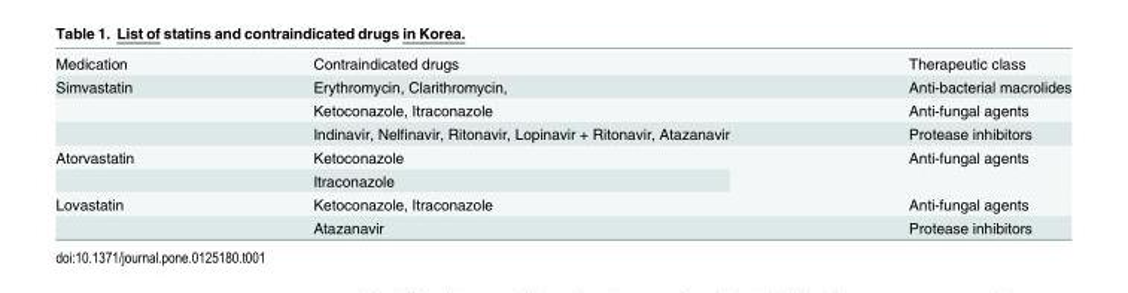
<table><tbody><tr><td>Medication</td><td>Contraindicated drugs</td><td>Therapeutic class</td></tr><tr><td rowspan="3">Simvastatin</td><td>Erythromycin, Clarithromycin,</td><td>Anti-bacterial macrolides</td></tr><tr><td>Ketoconazole, Itraconazole</td><td>Anti-fungal agents</td></tr><tr><td>Indinavir, Nelfinavir, Ritonavir, Lopinavir + Ritonavir, Atazanavir</td><td>Protease inhibitors</td></tr><tr><td rowspan="2">Atorvastatin</td><td>Ketoconazole</td><td rowspan="2">Anti-fungal agents</td></tr><tr><td>Itraconazole</td></tr><tr><td rowspan="2">Lovastatin</td><td>Ketoconazole, Itraconazole</td><td>Anti-fungal agents</td></tr><tr><td>Atazanavir</td><td>Protease inhibitors</td></tr></tbody></table>